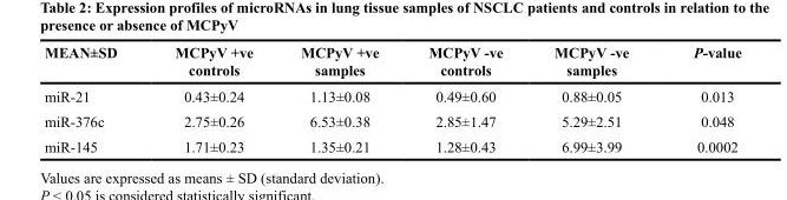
<table><thead><tr><td>MEAN±SD</td><td>MCPyV +ve controls</td><td>MCPyV +ve samples</td><td>MCPyV -ve controls</td><td>MCPyV -ve samples</td><td>P-value</td></tr></thead><tbody><tr><td>miR-21</td><td>0.43±0.24</td><td>1.13±0.08</td><td>0.49±0.60</td><td>0.88±0.05</td><td>0.013</td></tr><tr><td>miR-376c</td><td>2.75±0.26</td><td>6.53±0.38</td><td>2.85±1.47</td><td>5.29±2.51</td><td>0.048</td></tr><tr><td>miR-145</td><td>1.71±0.23</td><td>1.35±0.21</td><td>1.28±0.43</td><td>6.99±3.99</td><td>0.0002</td></tr></tbody></table>